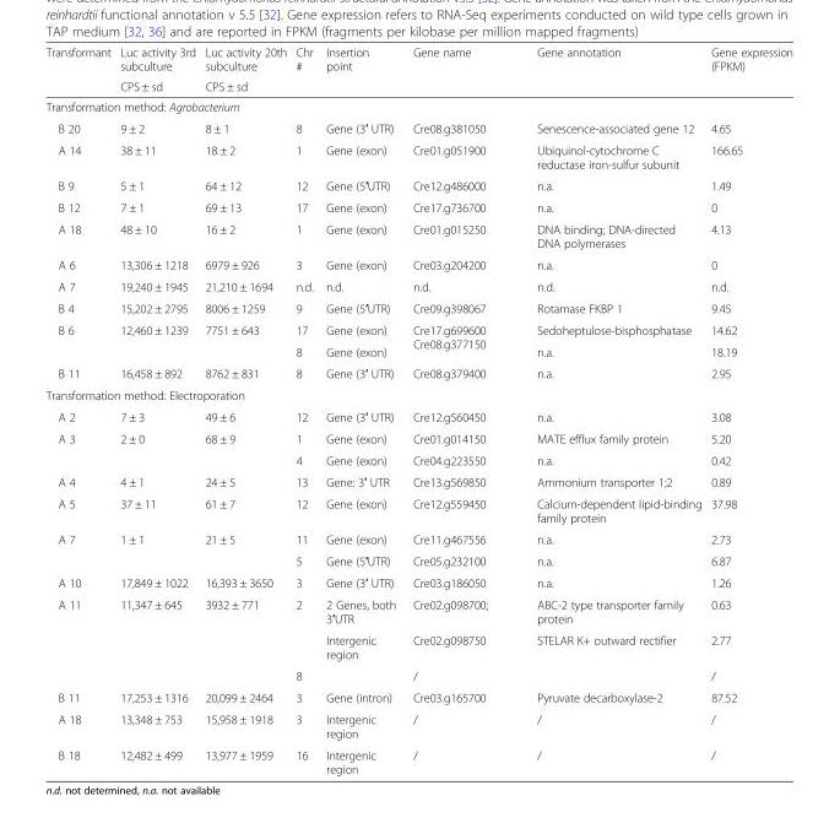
<table><thead><tr><td rowspan="2">Transformant</td><td rowspan="2">Luc activity 3rd subculture CPS ± sd</td><td rowspan="2">Luc activity 20th subculture CPS ± sd</td><td rowspan="2">Chr #</td><td rowspan="2">Insertion point</td><td rowspan="2">Gene name</td><td rowspan="2">Gene annotation</td><td rowspan="2">Gene expression (FPKM)</td></tr><tr></tr></thead><tbody><tr><td colspan="8">Transformation method: Agrobacterium</td></tr><tr><td>B 20</td><td>9 ± 2</td><td>8 ± 1</td><td>8</td><td>Gene (3′ UTR)</td><td>Cre08.g381050</td><td>Senescence-associated gene 12</td><td>4.65</td></tr><tr><td>A 14</td><td>38 ± 11</td><td>18 ± 2</td><td>1</td><td>Gene (exon)</td><td>Cre01.g051900</td><td>Ubiquinol-cytochrome C reductase iron-sulfur subunit</td><td>166.65</td></tr><tr><td>B 9</td><td>5 ± 1</td><td>64 ± 12</td><td>12</td><td>Gene (5′UTR)</td><td>Cre12.g486000</td><td>n.a.</td><td>1.49</td></tr><tr><td>B 12</td><td>7 ± 1</td><td>69 ± 13</td><td>17</td><td>Gene (exon)</td><td>Cre17.g736700</td><td>n.a.</td><td>0</td></tr><tr><td>A 18</td><td>48 ± 10</td><td>16 ± 2</td><td>1</td><td>Gene (exon)</td><td>Cre01.g015250</td><td>DNA binding; DNA-directed DNA polymerases</td><td>4.13</td></tr><tr><td>A 6</td><td>13,306 ± 1218</td><td>6979 ± 926</td><td>3</td><td>Gene (exon)</td><td>Cre03.g204200</td><td>n.a.</td><td>0</td></tr><tr><td>A 7</td><td>19,240 ± 1945</td><td>21,210 ± 1694</td><td>n.d.</td><td>n.d.</td><td>n.d.</td><td>n.d.</td><td>n.d.</td></tr><tr><td>B 4</td><td>15,202 ± 2795</td><td>8006 ± 1259</td><td>9</td><td>Gene (5′UTR)</td><td>Cre09.g398067</td><td>Rotamase FKBP 1</td><td>9.45</td></tr><tr><td rowspan="2">B 6</td><td>12,460 ± 1239</td><td>7751 ± 643</td><td>17</td><td>Gene (exon)</td><td rowspan="2">Cre17.g699600 Cre08.g377150</td><td>Sedoheptulose-bisphosphatase</td><td>14.62</td></tr><tr><td></td><td></td><td>8</td><td>Gene (exon)</td><td>n.a.</td><td>18.19</td></tr><tr><td>B 11</td><td>16,458 ± 892</td><td>8762 ± 831</td><td>8</td><td>Gene (3′ UTR)</td><td>Cre08.g379400</td><td>n.a.</td><td>2.95</td></tr><tr><td colspan="8">Transformation method: Electroporation</td></tr><tr><td>A 2</td><td>7 ± 3</td><td>49 ± 6</td><td>12</td><td>Gene (3′ UTR)</td><td>Cre12.g560450</td><td>n.a.</td><td>3.08</td></tr><tr><td rowspan="2">A 3</td><td rowspan="2">2 ± 0</td><td rowspan="2">68 ± 9</td><td>1</td><td>Gene (exon)</td><td>Cre01.g014150</td><td>MATE efflux family protein</td><td>5.20</td></tr><tr><td>4</td><td>Gene (exon)</td><td>Cre04.g223550</td><td>n.a.</td><td>0.42</td></tr><tr><td>A 4</td><td>4 ± 1</td><td>24 ± 5</td><td>13</td><td>Gene: 3′ UTR</td><td>Cre13.g569850</td><td>Ammonium transporter 1;2</td><td>0.89</td></tr><tr><td>A 5</td><td>37 ± 11</td><td>61 ± 7</td><td>12</td><td>Gene (exon)</td><td>Cre12.g559450</td><td>Calcium-dependent lipid-binding family protein</td><td>37.98</td></tr><tr><td rowspan="2">A 7</td><td rowspan="2">1 ± 1</td><td rowspan="2">21 ± 5</td><td>11</td><td>Gene (exon)</td><td>Cre11.g467556</td><td>n.a.</td><td>2.73</td></tr><tr><td>5</td><td>Gene (5′UTR)</td><td>Cre05.g232100</td><td>n.a.</td><td>6.87</td></tr><tr><td>A 10</td><td>17,849 ± 1022</td><td>16,393 ± 3650</td><td>3</td><td>Gene (3′ UTR)</td><td>Cre03.g186050</td><td>n.a.</td><td>1.26</td></tr><tr><td rowspan="3">A 11</td><td rowspan="3">11,347 ± 645</td><td rowspan="3">3932 ± 771</td><td>2</td><td>2 Genes, both 3′UTR</td><td>Cre02.g098700;</td><td>ABC-2 type transporter family protein</td><td>0.63</td></tr><tr><td></td><td>Intergenic region</td><td>Cre02.g098750</td><td>STELAR K+ outward rectifier</td><td>2.77</td></tr><tr><td>8</td><td></td><td>/</td><td></td><td>/</td></tr><tr><td>B 11</td><td>17,253 ± 1316</td><td>20,099 ± 2464</td><td>3</td><td>Gene (intron)</td><td>Cre03.g165700</td><td>Pyruvate decarboxylase-2</td><td>87.52</td></tr><tr><td>A 18</td><td>13,348 ± 753</td><td>15,958 ± 1918</td><td>3</td><td>Intergenic region</td><td>/</td><td>/</td><td>/</td></tr><tr><td>B 18</td><td>12,482 ± 499</td><td>13,977 ± 1959</td><td>16</td><td>Intergenic region</td><td>/</td><td>/</td><td>/</td></tr></tbody></table>